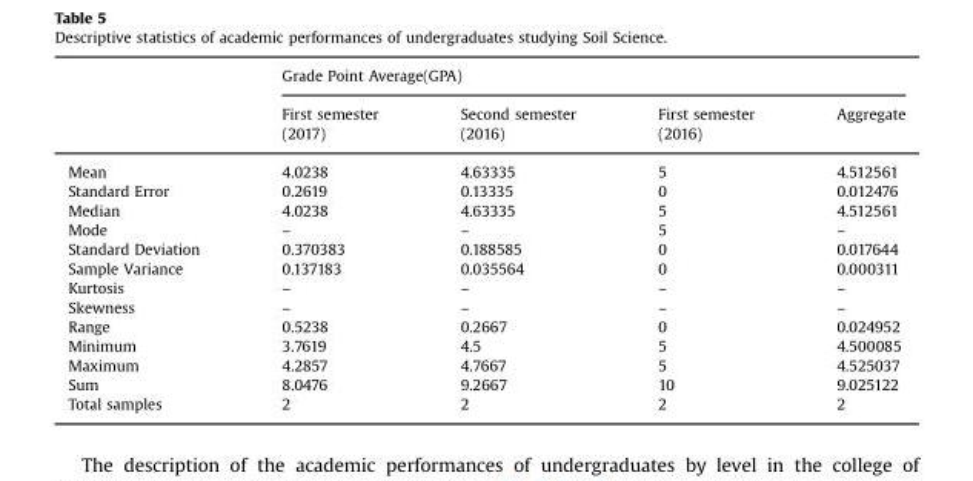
<table><thead><tr><td rowspan="3"></td><td colspan="4">Grade Point Average(GPA)</td></tr><tr><td rowspan="2">First semester (2017)</td><td rowspan="2">Second semester (2016)</td><td rowspan="2">First semester (2016)</td><td rowspan="2">Aggregate</td></tr><tr></tr></thead><tbody><tr><td>Mean</td><td>4.0238</td><td>4.63335</td><td>5</td><td>4.512561</td></tr><tr><td>Standard Error</td><td>0.2619</td><td>0.13335</td><td>0</td><td>0.012476</td></tr><tr><td>Median</td><td>4.0238</td><td>4.63335</td><td>5</td><td>4.512561</td></tr><tr><td>Mode</td><td>–</td><td>–</td><td>5</td><td>–</td></tr><tr><td>Standard Deviation</td><td>0.370383</td><td>0.188585</td><td>0</td><td>0.017644</td></tr><tr><td>Sample Variance</td><td>0.137183</td><td>0.035564</td><td>0</td><td>0.000311</td></tr><tr><td>Kurtosis</td><td>–</td><td>–</td><td>–</td><td>–</td></tr><tr><td>Skewness</td><td>–</td><td>–</td><td>–</td><td>–</td></tr><tr><td>Range</td><td>0.5238</td><td>0.2667</td><td>0</td><td>0.024952</td></tr><tr><td>Minimum</td><td>3.7619</td><td>4.5</td><td>5</td><td>4.500085</td></tr><tr><td>Maximum</td><td>4.2857</td><td>4.7667</td><td>5</td><td>4.525037</td></tr><tr><td>Sum</td><td>8.0476</td><td>9.2667</td><td>10</td><td>9.025122</td></tr><tr><td>Total samples</td><td>2</td><td>2</td><td>2</td><td>2</td></tr></tbody></table>